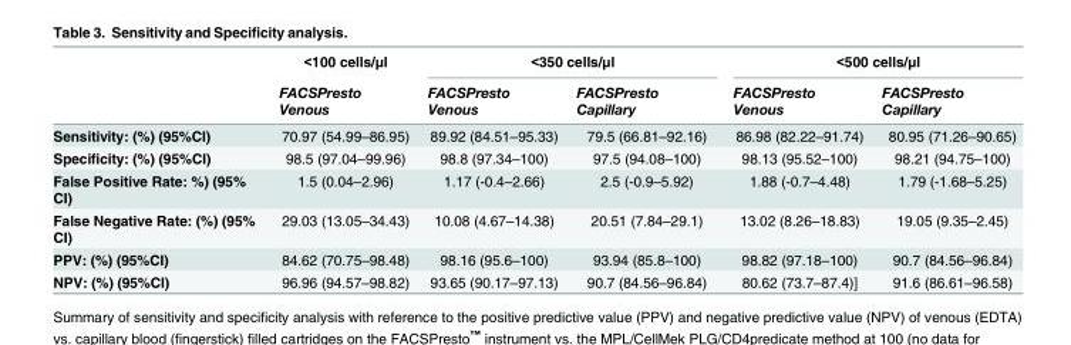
<table><thead><tr><td rowspan="2"></td><td rowspan="2">&lt;100 cells/μl FACSPresto Venous</td><td colspan="2">&lt;350 cells/μl</td><td colspan="2">&lt;500 cells/μl</td></tr><tr><td>FACSPresto Venous</td><td>FACSPresto Capillary</td><td>FACSPresto Venous</td><td>FACSPresto Capillary</td></tr></thead><tbody><tr><td>Sensitivity: (%) (95%CI)</td><td>70.97 (54.99–86.95)</td><td>89.92 (84.51–95.33)</td><td>79.5 (66.81–92.16)</td><td>86.98 (82.22–91.74)</td><td>80.95 (71.26–90.65)</td></tr><tr><td>Specificity: (%) (95%CI)</td><td>98.5 (97.04–99.96)</td><td>98.8 (97.34–100)</td><td>97.5 (94.08–100)</td><td>98.13 (95.52–100)</td><td>98.21 (94.75–100)</td></tr><tr><td>False Positive Rate: %) (95% CI)</td><td>1.5 (0.04–2.96)</td><td>1.17 (-0.4–2.66)</td><td>2.5 (-0.9–5.92)</td><td>1.88 (-0.7–4.48)</td><td>1.79 (-1.68–5.25)</td></tr><tr><td>False Negative Rate: (%) (95% CI)</td><td>29.03 (13.05–34.43)</td><td>10.08 (4.67–14.38)</td><td>20.51 (7.84–29.1)</td><td>13.02 (8.26–18.83)</td><td>19.05 (9.35–2.45)</td></tr><tr><td>PPV: (%) (95%CI)</td><td>84.62 (70.75–98.48)</td><td>98.16 (95.6–100)</td><td>93.94 (85.8–100)</td><td>98.82 (97.18–100)</td><td>90.7 (84.56–96.84)</td></tr><tr><td>NPV: (%) (95%CI)</td><td>96.96 (94.57–98.82)</td><td>93.65 (90.17–97.13)</td><td>90.7 (84.56–96.84)</td><td>80.62 (73.7–87.4)]</td><td>91.6 (86.61–96.58)</td></tr></tbody></table>